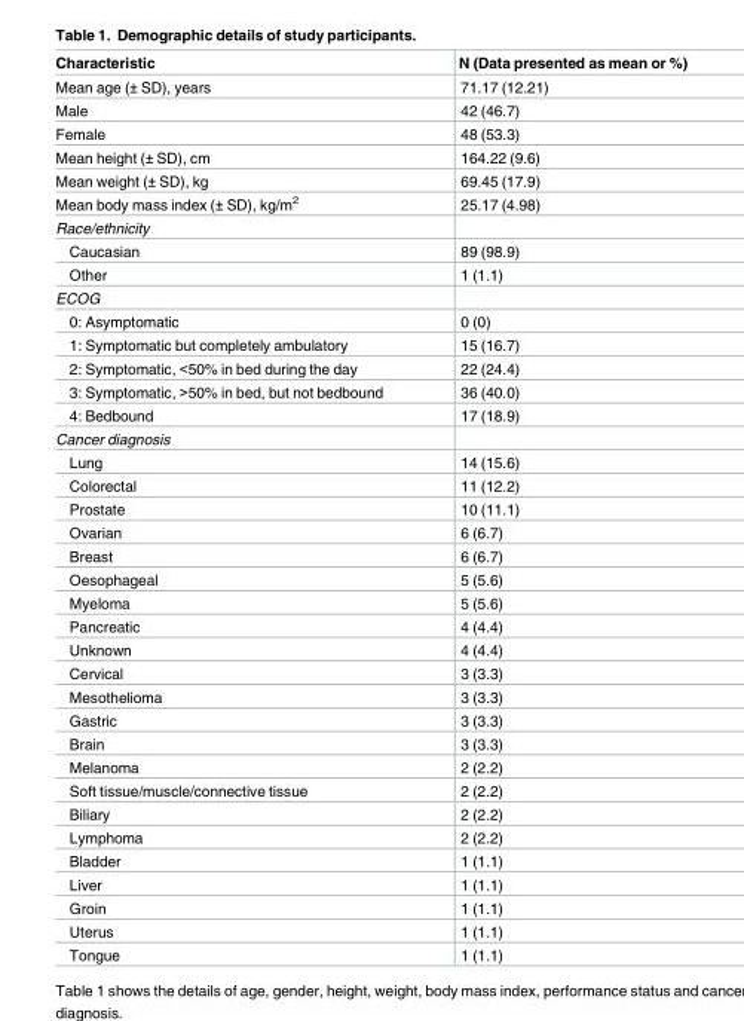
<table><thead><tr><td>Characteristic</td><td>N (Data presented as mean or %)</td></tr></thead><tbody><tr><td>Mean age (± SD), years</td><td>71.17 (12.21)</td></tr><tr><td>Male</td><td>42 (46.7)</td></tr><tr><td>Female</td><td>48 (53.3)</td></tr><tr><td>Mean height (± SD), cm</td><td>164.22 (9.6)</td></tr><tr><td>Mean weight (± SD), kg</td><td>69.45 (17.9)</td></tr><tr><td>Mean body mass index (± SD), kg/m<sup>2</sup></td><td>25.17 (4.98)</td></tr><tr><td colspan="2">Race/ethnicity</td></tr><tr><td>Caucasian</td><td>89 (98.9)</td></tr><tr><td>Other</td><td>1 (1.1)</td></tr><tr><td colspan="2">ECOG</td></tr><tr><td>0: Asymptomatic</td><td>0 (0)</td></tr><tr><td>1: Symptomatic but completely ambulatory</td><td>15 (16.7)</td></tr><tr><td>2: Symptomatic, &lt;50% in bed during the day</td><td>22 (24.4)</td></tr><tr><td>3: Symptomatic, &gt;50% in bed, but not bedbound</td><td>36 (40.0)</td></tr><tr><td>4: Bedbound</td><td>17 (18.9)</td></tr><tr><td colspan="2">Cancer diagnosis</td></tr><tr><td>Lung</td><td>14 (15.6)</td></tr><tr><td>Colorectal</td><td>11 (12.2)</td></tr><tr><td>Prostate</td><td>10 (11.1)</td></tr><tr><td>Ovarian</td><td>6 (6.7)</td></tr><tr><td>Breast</td><td>6 (6.7)</td></tr><tr><td>Oesophageal</td><td>5 (5.6)</td></tr><tr><td>Myeloma</td><td>5 (5.6)</td></tr><tr><td>Pancreatic</td><td>4 (4.4)</td></tr><tr><td>Unknown</td><td>4 (4.4)</td></tr><tr><td>Cervical</td><td>3 (3.3)</td></tr><tr><td>Mesothelioma</td><td>3 (3.3)</td></tr><tr><td>Gastric</td><td>3 (3.3)</td></tr><tr><td>Brain</td><td>3 (3.3)</td></tr><tr><td>Melanoma</td><td>2 (2.2)</td></tr><tr><td>Soft tissue/muscle/connective tissue</td><td>2 (2.2)</td></tr><tr><td>Biliary</td><td>2 (2.2)</td></tr><tr><td>Lymphoma</td><td>2 (2.2)</td></tr><tr><td>Bladder</td><td>1 (1.1)</td></tr><tr><td>Liver</td><td>1 (1.1)</td></tr><tr><td>Groin</td><td>1 (1.1)</td></tr><tr><td>Uterus</td><td>1 (1.1)</td></tr><tr><td>Tongue</td><td>1 (1.1)</td></tr></tbody></table>